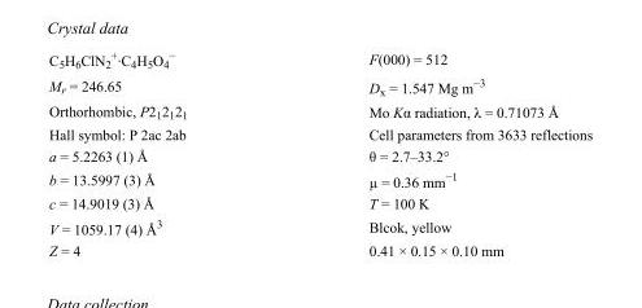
<table><tbody><tr><td>C<sub>5</sub>H<sub>6</sub>ClN<sub>2</sub> <sup>+</sup>·C<sub>4</sub>H<sub>5</sub>O<sub>4</sub> <sup>−</sup></td><td>F(000) = 512</td></tr><tr><td>M<sub>r</sub> = 246.65</td><td>D<sub>x</sub> = 1.547 Mg m<sup>−3</sup></td></tr><tr><td>Orthorhombic, P2<sub>1</sub>2<sub>1</sub>2<sub>1</sub></td><td>Mo Kα radiation, λ = 0.71073 Å</td></tr><tr><td>Hall symbol: P 2ac 2ab</td><td>Cell parameters from 3633 reflections</td></tr><tr><td>a = 5.2263 (1) Å</td><td>θ = 2.7–33.2°</td></tr><tr><td>b = 13.5997 (3) Å</td><td>µ = 0.36 mm<sup>−1</sup></td></tr><tr><td>c = 14.9019 (3) Å</td><td>T = 100 K</td></tr><tr><td>V = 1059.17 (4) Å<sup>3</sup></td><td>Blcok, yellow</td></tr><tr><td>Z = 4</td><td>0.41 × 0.15 × 0.10 mm</td></tr></tbody></table>